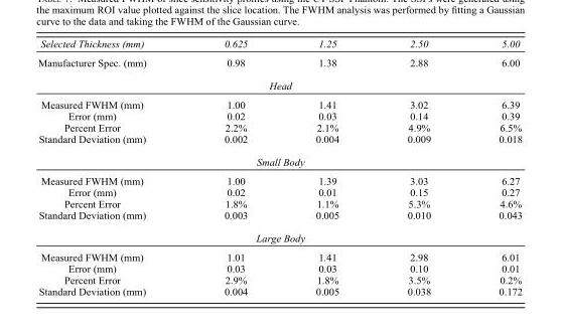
<table><thead><tr><td>Selected Thickness (mm)</td><td>0.625</td><td>1.25</td><td>2.50</td><td>5.00</td></tr></thead><tbody><tr><td rowspan="2">Manufacturer Spec. (mm)</td><td>0.98</td><td>1.38</td><td>2.88</td><td>6.00</td></tr><tr><td colspan="2">Head</td><td></td><td></td></tr><tr><td>Measured FWHM (mm)</td><td>1.00</td><td>1.41</td><td>3.02</td><td>6.39</td></tr><tr><td>Error (mm)</td><td>0.02</td><td>0.03</td><td>0.14</td><td>0.39</td></tr><tr><td>Percent Error</td><td>2.2%</td><td>2.1%</td><td>4.9%</td><td>6.5%</td></tr><tr><td rowspan="2">Standard Deviation (mm)</td><td>0.002</td><td>0.004</td><td>0.009</td><td>0.018</td></tr><tr><td colspan="2">Small Body</td><td></td><td></td></tr><tr><td>Measured FWHM (mm)</td><td>1.00</td><td>1.39</td><td>3.03</td><td>6.27</td></tr><tr><td>Error (mm)</td><td>0.02</td><td>0.01</td><td>0.15</td><td>0.27</td></tr><tr><td>Percent Error</td><td>1.8%</td><td>1.1%</td><td>5.3%</td><td>4.6%</td></tr><tr><td rowspan="2">Standard Deviation (mm)</td><td>0.003</td><td>0.005</td><td>0.010</td><td>0.043</td></tr><tr><td colspan="2">Large Body</td><td></td><td></td></tr><tr><td>Measured FWHM (mm)</td><td>1.01</td><td>1.41</td><td>2.98</td><td>6.01</td></tr><tr><td>Error (mm)</td><td>0.03</td><td>0.03</td><td>0.10</td><td>0.01</td></tr><tr><td>Percent Error</td><td>2.9%</td><td>1.8%</td><td>3.5%</td><td>0.2%</td></tr><tr><td>Standard Deviation (mm)</td><td>0.004</td><td>0.005</td><td>0.038</td><td>0.172</td></tr></tbody></table>